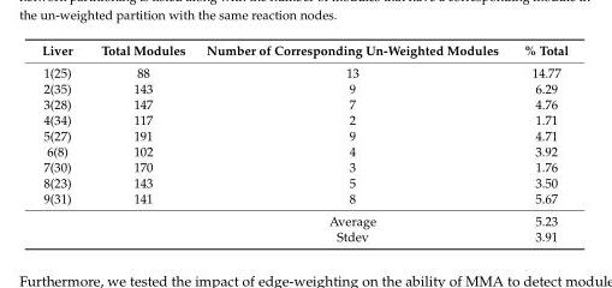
<table><thead><tr><td>Liver</td><td>Total Modules</td><td>Number of Corresponding Un-Weighted Modules</td><td>% Total</td></tr></thead><tbody><tr><td>1(25)</td><td>88</td><td>13</td><td>14.77</td></tr><tr><td>2(35)</td><td>143</td><td>9</td><td>6.29</td></tr><tr><td>3(28)</td><td>147</td><td>7</td><td>4.76</td></tr><tr><td>4(34)</td><td>117</td><td>2</td><td>1.71</td></tr><tr><td>5(27)</td><td>191</td><td>9</td><td>4.71</td></tr><tr><td>6(8)</td><td>102</td><td>4</td><td>3.92</td></tr><tr><td>7(30)</td><td>170</td><td>3</td><td>1.76</td></tr><tr><td>8(23)</td><td>143</td><td>5</td><td>3.50</td></tr><tr><td rowspan="3">9(31)</td><td>141</td><td>8</td><td>5.67</td></tr><tr><td></td><td>Average</td><td>5.23</td></tr><tr><td></td><td>Stdev</td><td>3.91</td></tr></tbody></table>